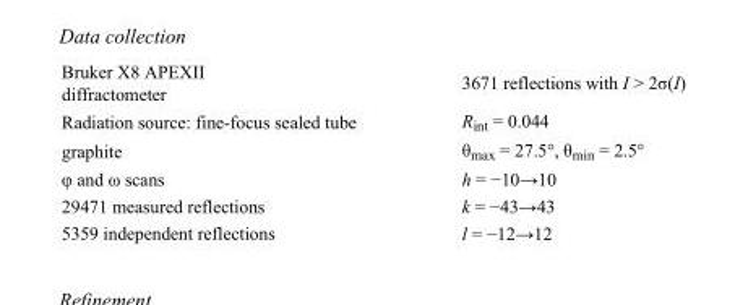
<table><tbody><tr><td>Bruker X8 APEXII diffractometer</td><td>3671 reflections with I &gt; 2σ(I)</td></tr><tr><td>Radiation source: fine-focus sealed tube</td><td>R<sub>int</sub> = 0.044</td></tr><tr><td>graphite</td><td>θ<sub>max</sub> = 27.5°, θ<sub>min</sub> = 2.5°</td></tr><tr><td>φ and ω scans</td><td>h = −10→10</td></tr><tr><td>29471 measured reflections</td><td>k = −43→43</td></tr><tr><td>5359 independent reflections</td><td>l = −12→12</td></tr></tbody></table>